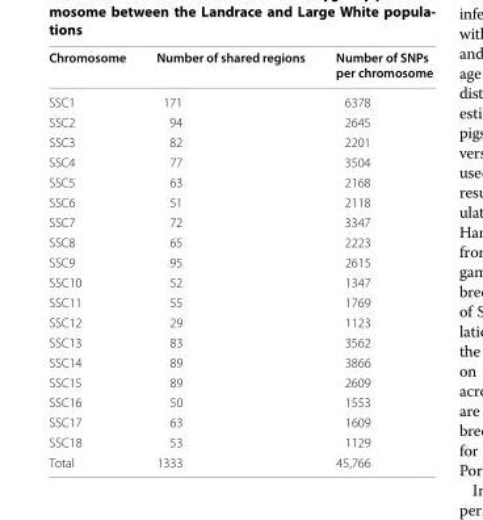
<table><thead><tr><td>Chromosome</td><td>Number of shared regions</td><td>Number of SNPs per chromosome</td></tr></thead><tbody><tr><td>SSC1</td><td>171</td><td>6378</td></tr><tr><td>SSC2</td><td>94</td><td>2645</td></tr><tr><td>SSC3</td><td>82</td><td>2201</td></tr><tr><td>SSC4</td><td>77</td><td>3504</td></tr><tr><td>SSC5</td><td>63</td><td>2168</td></tr><tr><td>SSC6</td><td>51</td><td>2118</td></tr><tr><td>SSC7</td><td>72</td><td>3347</td></tr><tr><td>SSC8</td><td>65</td><td>2223</td></tr><tr><td>SSC9</td><td>95</td><td>2615</td></tr><tr><td>SSC10</td><td>52</td><td>1347</td></tr><tr><td>SSC11</td><td>55</td><td>1769</td></tr><tr><td>SSC12</td><td>29</td><td>1123</td></tr><tr><td>SSC13</td><td>83</td><td>3562</td></tr><tr><td>SSC14</td><td>89</td><td>3866</td></tr><tr><td>SSC15</td><td>89</td><td>2609</td></tr><tr><td>SSC16</td><td>50</td><td>1553</td></tr><tr><td>SSC17</td><td>63</td><td>1609</td></tr><tr><td>SSC18</td><td>53</td><td>1129</td></tr><tr><td>Total</td><td>1333</td><td>45,766</td></tr></tbody></table>